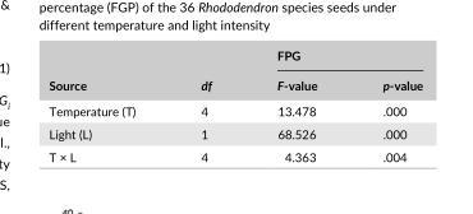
<table><thead><tr><td rowspan="2">Source</td><td rowspan="2">df</td><td colspan="2">FPG</td></tr><tr><td>F- value</td><td>p- value</td></tr></thead><tbody><tr><td>Temperature (T)</td><td>4</td><td>13.478</td><td>.000</td></tr><tr><td>Light (L)</td><td>1</td><td>68.526</td><td>.000</td></tr><tr><td>T × L</td><td>4</td><td>4.363</td><td>.004</td></tr></tbody></table>